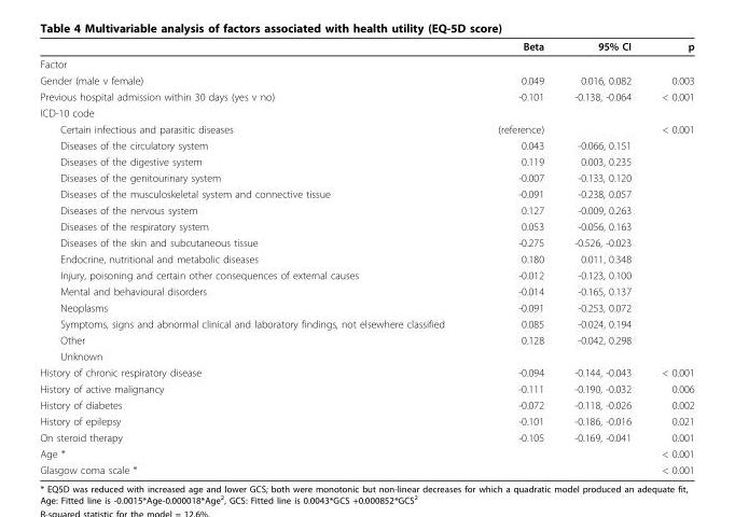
<table><thead><tr><td></td><td>Beta</td><td>95% CI</td><td>p</td></tr></thead><tbody><tr><td colspan="4">Factor</td></tr><tr><td>Gender (male v female)</td><td>0.049</td><td>0.016, 0.082</td><td>0.003</td></tr><tr><td>Previous hospital admission within 30 days (yes v no)</td><td>-0.101</td><td>-0.138, -0.064</td><td>&lt; 0.001</td></tr><tr><td colspan="4">ICD-10 code</td></tr><tr><td>Certain infectious and parasitic diseases</td><td>(reference)</td><td></td><td>&lt; 0.001</td></tr><tr><td>Diseases of the circulatory system</td><td>0.043</td><td>-0.066, 0.151</td><td></td></tr><tr><td>Diseases of the digestive system</td><td>0.119</td><td>0.003, 0.235</td><td></td></tr><tr><td>Diseases of the genitourinary system</td><td>-0.007</td><td>-0.133, 0.120</td><td></td></tr><tr><td>Diseases of the musculoskeletal system and connective tissue</td><td>-0.091</td><td>-0.238, 0.057</td><td></td></tr><tr><td>Diseases of the nervous system</td><td>0.127</td><td>-0.009, 0.263</td><td></td></tr><tr><td>Diseases of the respiratory system</td><td>0.053</td><td>-0.056, 0.163</td><td></td></tr><tr><td>Diseases of the skin and subcutaneous tissue</td><td>-0.275</td><td>-0.526, -0.023</td><td></td></tr><tr><td>Endocrine, nutritional and metabolic diseases</td><td>0.180</td><td>0.011, 0.348</td><td></td></tr><tr><td>Injury, poisoning and certain other consequences of external causes</td><td>-0.012</td><td>-0.123, 0.100</td><td></td></tr><tr><td>Mental and behavioural disorders</td><td>-0.014</td><td>-0.165, 0.137</td><td></td></tr><tr><td>Neoplasms</td><td>-0.091</td><td>-0.253, 0.072</td><td></td></tr><tr><td>Symptoms, signs and abnormal clinical and laboratory findings, not elsewhere classified</td><td>0.085</td><td>-0.024, 0.194</td><td></td></tr><tr><td>Other</td><td>0.128</td><td>-0.042, 0.298</td><td></td></tr><tr><td colspan="4">Unknown</td></tr><tr><td>History of chronic respiratory disease</td><td>-0.094</td><td>-0.144, -0.043</td><td>&lt; 0.001</td></tr><tr><td>History of active malignancy</td><td>-0.111</td><td>-0.190, -0.032</td><td>0.006</td></tr><tr><td>History of diabetes</td><td>-0.072</td><td>-0.118, -0.026</td><td>0.002</td></tr><tr><td>History of epilepsy</td><td>-0.101</td><td>-0.186, -0.016</td><td>0.021</td></tr><tr><td>On steroid therapy</td><td>-0.105</td><td>-0.169, -0.041</td><td>0.001</td></tr><tr><td>Age *</td><td></td><td></td><td>&lt; 0.001</td></tr><tr><td>Glasgow coma scale *</td><td></td><td></td><td>&lt; 0.001</td></tr></tbody></table>